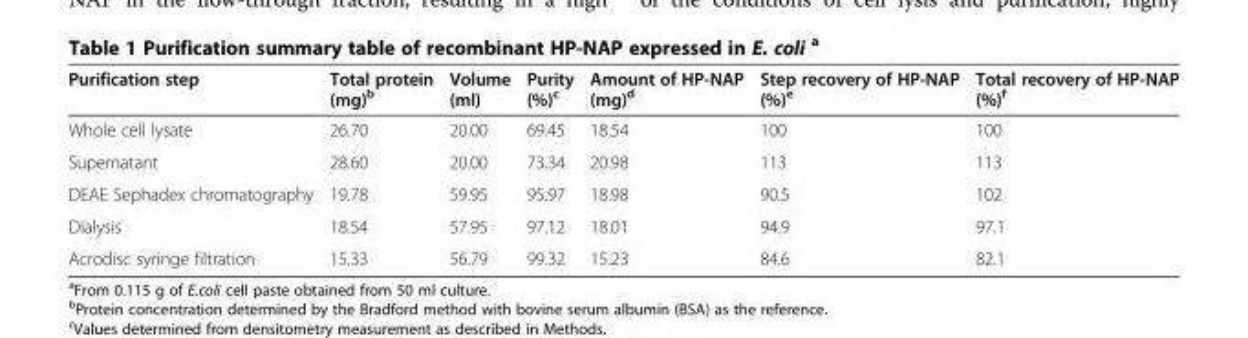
<table><thead><tr><td>Purification step</td><td>Total protein (mg)<sup>b</sup></td><td>Volume (ml)</td><td>Purity (%)<sup>c</sup></td><td>Amount of HP-NAP (mg)<sup>d</sup></td><td>Step recovery of HP-NAP (%)<sup>e</sup></td><td>Total recovery of HP-NAP (%)<sup>f</sup></td></tr></thead><tbody><tr><td>Whole cell lysate</td><td>26.70</td><td>20.00</td><td>69.45</td><td>18.54</td><td>100</td><td>100</td></tr><tr><td>Supernatant</td><td>28.60</td><td>20.00</td><td>73.34</td><td>20.98</td><td>113</td><td>113</td></tr><tr><td>DEAE Sephadex chromatography</td><td>19.78</td><td>59.95</td><td>95.97</td><td>18.98</td><td>90.5</td><td>102</td></tr><tr><td>Dialysis</td><td>18.54</td><td>57.95</td><td>97.12</td><td>18.01</td><td>94.9</td><td>97.1</td></tr><tr><td>Acrodisc syringe filtration</td><td>15.33</td><td>56.79</td><td>99.32</td><td>15.23</td><td>84.6</td><td>82.1</td></tr></tbody></table>